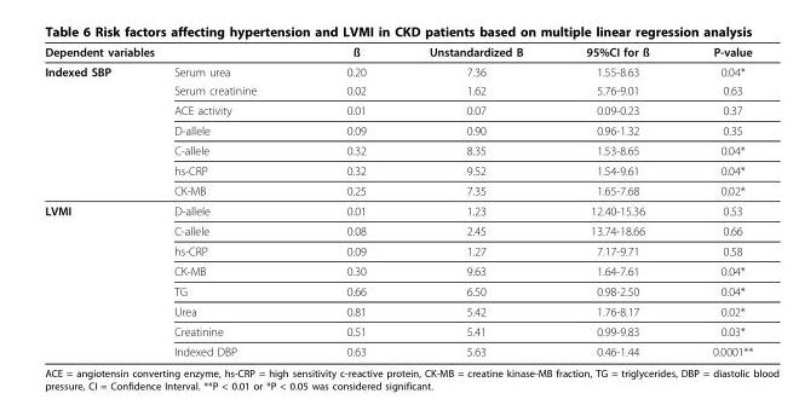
<table><thead><tr><td colspan="2">Dependent variables</td><td rowspan="2">ß 0.20</td><td rowspan="2">Unstandardized B 7.36</td><td rowspan="2">95%CI for ß 1.55-8.63</td><td rowspan="2">P-value 0.04*</td></tr><tr><td>Indexed SBP</td><td>Serum urea</td></tr></thead><tbody><tr><td></td><td>Serum creatinine</td><td>0.02</td><td>1.62</td><td>5.76-9.01</td><td>0.63</td></tr><tr><td></td><td>ACE activity</td><td>0.01</td><td>0.07</td><td>0.09-0.23</td><td>0.37</td></tr><tr><td></td><td>D-allele</td><td>0.09</td><td>0.90</td><td>0.96-1.32</td><td>0.35</td></tr><tr><td></td><td>C-allele</td><td>0.32</td><td>8.35</td><td>1.53-8.65</td><td>0.04*</td></tr><tr><td></td><td>hs-CRP</td><td>0.32</td><td>9.52</td><td>1.54-9.61</td><td>0.04*</td></tr><tr><td></td><td>CK-MB</td><td>0.25</td><td>7.35</td><td>1.65-7.68</td><td>0.02*</td></tr><tr><td rowspan="8">LVMI</td><td>D-allele</td><td>0.01</td><td>1.23</td><td>12.40-15.36</td><td>0.53</td></tr><tr><td>C-allele</td><td>0.08</td><td>2.45</td><td>13.74-18.66</td><td>0.66</td></tr><tr><td>hs-CRP</td><td>0.09</td><td>1.27</td><td>7.17-9.71</td><td>0.58</td></tr><tr><td>CK-MB</td><td>0.30</td><td>9.63</td><td>1.64-7.61</td><td>0.04*</td></tr><tr><td>TG</td><td>0.66</td><td>6.50</td><td>0.98-2.50</td><td>0.04*</td></tr><tr><td>Urea</td><td>0.81</td><td>5.42</td><td>1.76-8.17</td><td>0.02*</td></tr><tr><td>Creatinine</td><td>0.51</td><td>5.41</td><td>0.99-9.83</td><td>0.03*</td></tr><tr><td>Indexed DBP</td><td>0.63</td><td>5.63</td><td>0.46-1.44</td><td>0.0001**</td></tr></tbody></table>